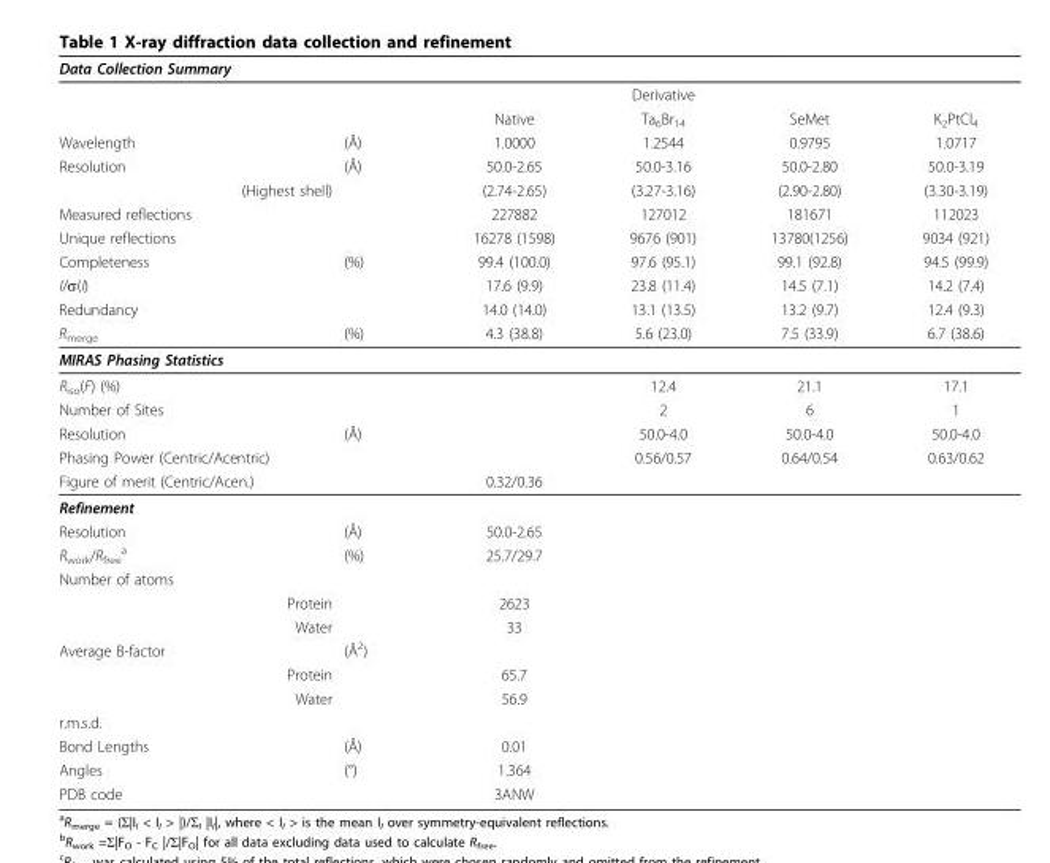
<table><thead><tr><td>Data Collection Summary</td><td></td><td></td><td></td><td></td><td></td></tr></thead><tbody><tr><td></td><td></td><td></td><td>Derivative</td><td></td><td></td></tr><tr><td></td><td></td><td>Native</td><td>Ta<sub>6</sub>Br<sub>14</sub></td><td>SeMet</td><td>K<sub>2</sub>PtCl<sub>4</sub></td></tr><tr><td>Wavelength</td><td>(Å)</td><td>1.0000</td><td>1.2544</td><td>0.9795</td><td>1.0717</td></tr><tr><td>Resolution</td><td>(Å)</td><td>50.0-2.65</td><td>50.0-3.16</td><td>50.0-2.80</td><td>50.0-3.19</td></tr><tr><td>(Highest shell)</td><td></td><td>(2.74-2.65)</td><td>(3.27-3.16)</td><td>(2.90-2.80)</td><td>(3.30-3.19)</td></tr><tr><td>Measured reflections</td><td></td><td>227882</td><td>127012</td><td>181671</td><td>112023</td></tr><tr><td>Unique reflections</td><td></td><td>16278 (1598)</td><td>9676 (901)</td><td>13780(1256)</td><td>9034 (921)</td></tr><tr><td>Completeness</td><td>(%)</td><td>99.4 (100.0)</td><td>97.6 (95.1)</td><td>99.1 (92.8)</td><td>94.5 (99.9)</td></tr><tr><td>I/σ(I)</td><td></td><td>17.6 (9.9)</td><td>23.8 (11.4)</td><td>14.5 (7.1)</td><td>14.2 (7.4)</td></tr><tr><td>Redundancy</td><td></td><td>14.0 (14.0)</td><td>13.1 (13.5)</td><td>13.2 (9.7)</td><td>12.4 (9.3)</td></tr><tr><td>R<sub>merge</sub></td><td>(%)</td><td>4.3 (38.8)</td><td>5.6 (23.0)</td><td>7.5 (33.9)</td><td>6.7 (38.6)</td></tr><tr><td colspan="6">MIRAS Phasing Statistics</td></tr><tr><td>R<sub>iso</sub>(F) (%)</td><td></td><td></td><td>12.4</td><td>21.1</td><td>17.1</td></tr><tr><td>Number of Sites</td><td></td><td></td><td>2</td><td>6</td><td>1</td></tr><tr><td>Resolution</td><td>(Å)</td><td></td><td>50.0-4.0</td><td>50.0-4.0</td><td>50.0-4.0</td></tr><tr><td>Phasing Power (Centric/Acentric)</td><td></td><td></td><td>0.56/0.57</td><td>0.64/0.54</td><td>0.63/0.62</td></tr><tr><td>Figure of merit (Centric/Acen.)</td><td></td><td>0.32/0.36</td><td></td><td></td><td></td></tr><tr><td colspan="6">Refinement</td></tr><tr><td>Resolution</td><td>(Å)</td><td>50.0-2.65</td><td></td><td></td><td></td></tr><tr><td>R<sub>work</sub>/R<sub>free</sub> <sup>a</sup></td><td>(%)</td><td>25.7/29.7</td><td></td><td></td><td></td></tr><tr><td colspan="6">Number of atoms</td></tr><tr><td>Protein</td><td></td><td>2623</td><td></td><td></td><td></td></tr><tr><td>Water</td><td></td><td>33</td><td></td><td></td><td></td></tr><tr><td>Average B-factor</td><td>(Å<sup>2</sup>)</td><td></td><td></td><td></td><td></td></tr><tr><td>Protein</td><td></td><td>65.7</td><td></td><td></td><td></td></tr><tr><td>Water</td><td></td><td>56.9</td><td></td><td></td><td></td></tr><tr><td colspan="6">r.m.s.d.</td></tr><tr><td>Bond Lengths</td><td>(Å)</td><td>0.01</td><td></td><td></td><td></td></tr><tr><td>Angles</td><td>(°)</td><td>1.364</td><td></td><td></td><td></td></tr><tr><td>PDB code</td><td></td><td>3ANW</td><td></td><td></td><td></td></tr></tbody></table>